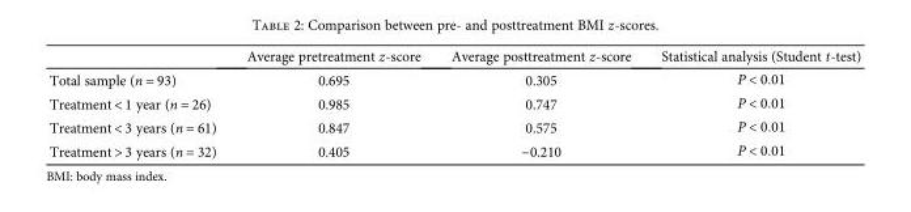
<table><thead><tr><td></td><td>Average pretreatment z-score</td><td>Average posttreatment z-score</td><td>Statistical analysis (Student t-test)</td></tr></thead><tbody><tr><td>Total sample (n = 93)</td><td>0.695</td><td>0.305</td><td>P &lt; 0 01</td></tr><tr><td>Treatment &lt; 1 year (n = 26)</td><td>0.985</td><td>0.747</td><td>P &lt; 0 01</td></tr><tr><td>Treatment &lt; 3 years (n = 61)</td><td>0.847</td><td>0.575</td><td>P &lt; 0 01</td></tr><tr><td>Treatment &gt; 3 years (n = 32)</td><td>0.405</td><td>−0.210</td><td>P &lt; 0 01</td></tr></tbody></table>